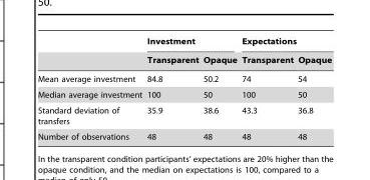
<table><thead><tr><td rowspan="2"></td><td colspan="2">Investment</td><td colspan="2">Expectations</td></tr><tr><td>Transparent</td><td>Opaque</td><td>Transparent</td><td>Opaque</td></tr></thead><tbody><tr><td>Mean average investment</td><td>84.8</td><td>50.2</td><td>74</td><td>54</td></tr><tr><td>Median average investment</td><td>100</td><td>50</td><td>100</td><td>50</td></tr><tr><td>Standard deviation of transfers</td><td>35.9</td><td>38.6</td><td>43.3</td><td>36.8</td></tr><tr><td>Number of observations</td><td>48</td><td>48</td><td>48</td><td>48</td></tr></tbody></table>